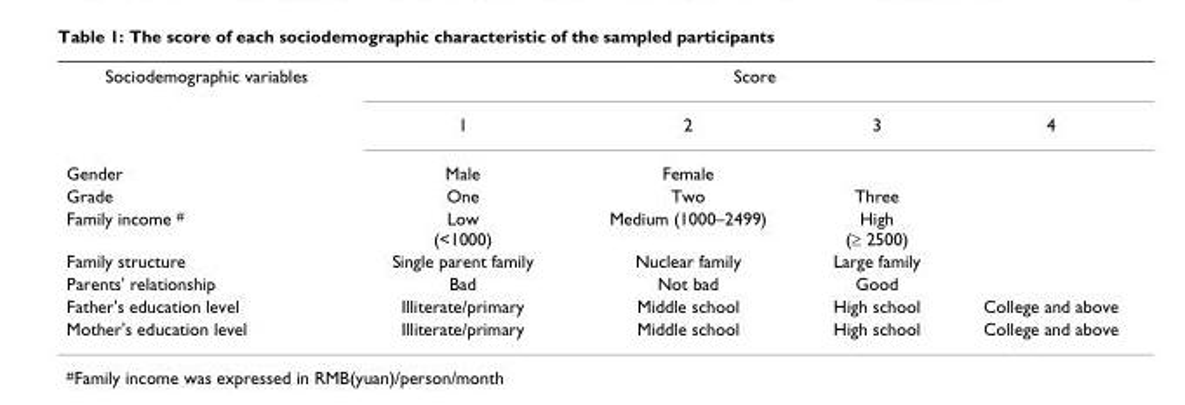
<table><tbody><tr><td rowspan="2">Sociodemographic variables</td><td colspan="4">Score</td></tr><tr><td>1</td><td>2</td><td>3</td><td>4</td></tr><tr><td>Gender</td><td>Male</td><td>Female</td><td></td><td></td></tr><tr><td>Grade</td><td>One</td><td>Two</td><td>Three</td><td></td></tr><tr><td>Family income <sup>#</sup></td><td>Low (&lt;1000)</td><td>Medium (1000–2499)</td><td>High (≥ 2500)</td><td></td></tr><tr><td>Family structure</td><td>Single parent family</td><td>Nuclear family</td><td>Large family</td><td></td></tr><tr><td>Parents&#x27; relationship</td><td>Bad</td><td>Not bad</td><td>Good</td><td></td></tr><tr><td>Father&#x27;s education level</td><td>Illiterate/primary</td><td>Middle school</td><td>High school</td><td>College and above</td></tr><tr><td>Mother&#x27;s education level</td><td>Illiterate/primary</td><td>Middle school</td><td>High school</td><td>College and above</td></tr></tbody></table>